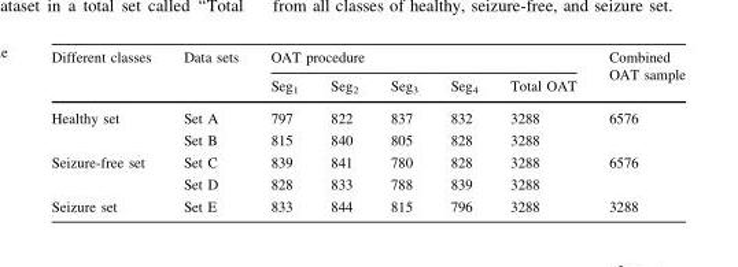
<table><thead><tr><td rowspan="2">Different classes</td><td rowspan="2">Data sets</td><td colspan="5">OAT procedure</td><td rowspan="2">Combined OAT sample</td></tr><tr><td>Seg<sub>1</sub></td><td>Seg<sub>2</sub></td><td>Seg<sub>3</sub></td><td>Seg<sub>4</sub></td><td>Total OAT</td></tr></thead><tbody><tr><td rowspan="2">Healthy set</td><td>Set A</td><td>797</td><td>822</td><td>837</td><td>832</td><td>3288</td><td rowspan="2">6576</td></tr><tr><td>Set B</td><td>815</td><td>840</td><td>805</td><td>828</td><td>3288</td></tr><tr><td rowspan="2">Seizure-free set</td><td>Set C</td><td>839</td><td>841</td><td>780</td><td>828</td><td>3288</td><td rowspan="2">6576</td></tr><tr><td>Set D</td><td>828</td><td>833</td><td>788</td><td>839</td><td>3288</td></tr><tr><td>Seizure set</td><td>Set E</td><td>833</td><td>844</td><td>815</td><td>796</td><td>3288</td><td>3288</td></tr></tbody></table>